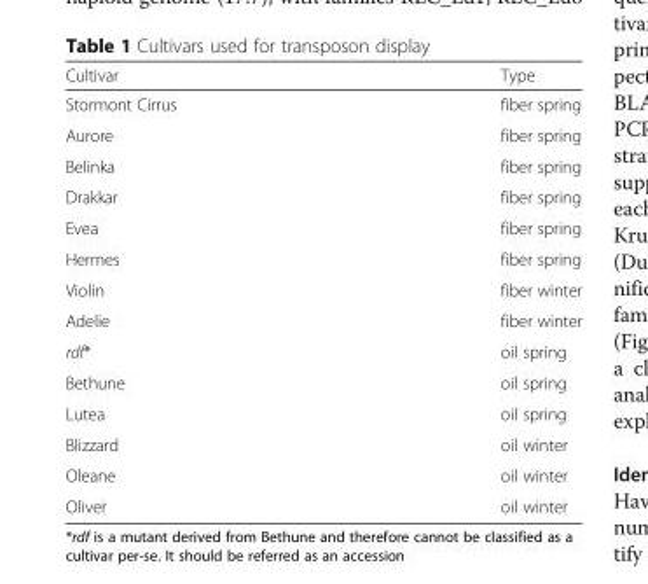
<table><thead><tr><td>Cultivar</td><td>Type</td></tr></thead><tbody><tr><td>Stormont Cirrus</td><td>fiber spring</td></tr><tr><td>Aurore</td><td>fiber spring</td></tr><tr><td>Belinka</td><td>fiber spring</td></tr><tr><td>Drakkar</td><td>fiber spring</td></tr><tr><td>Evea</td><td>fiber spring</td></tr><tr><td>Hermes</td><td>fiber spring</td></tr><tr><td>Violin</td><td>fiber winter</td></tr><tr><td>Adelie</td><td>fiber winter</td></tr><tr><td>rdf*</td><td>oil spring</td></tr><tr><td>Bethune</td><td>oil spring</td></tr><tr><td>Lutea</td><td>oil spring</td></tr><tr><td>Blizzard</td><td>oil winter</td></tr><tr><td>Oleane</td><td>oil winter</td></tr><tr><td>Oliver</td><td>oil winter</td></tr></tbody></table>